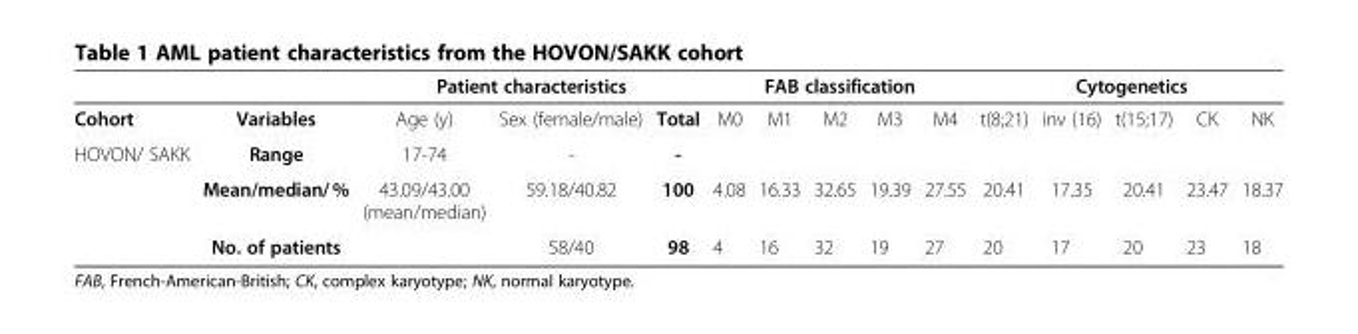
<table><thead><tr><td rowspan="2">Cohort</td><td rowspan="2">Variables</td><td colspan="3">Patient characteristics</td><td colspan="5">FAB classification</td><td colspan="5">Cytogenetics</td></tr><tr><td>Age (y)</td><td>Sex (female/male)</td><td>Total</td><td>M0</td><td>M1</td><td>M2</td><td>M3</td><td>M4</td><td>t(8;21)</td><td>inv (16)</td><td>t(15;17)</td><td>CK</td><td>NK</td></tr></thead><tbody><tr><td rowspan="3">HOVON/ SAKK</td><td>Range</td><td>17-74</td><td>-</td><td>-</td><td></td><td></td><td></td><td></td><td></td><td></td><td></td><td></td><td></td><td></td></tr><tr><td>Mean/median/ %</td><td>43.09/43.00 (mean/median)</td><td>59.18/40.82</td><td>100</td><td>4.08</td><td>16.33</td><td>32.65</td><td>19.39</td><td>27.55</td><td>20.41</td><td>17.35</td><td>20.41</td><td>23.47</td><td>18.37</td></tr><tr><td>No. of patients</td><td></td><td>58/40</td><td>98</td><td>4</td><td>16</td><td>32</td><td>19</td><td>27</td><td>20</td><td>17</td><td>20</td><td>23</td><td>18</td></tr></tbody></table>